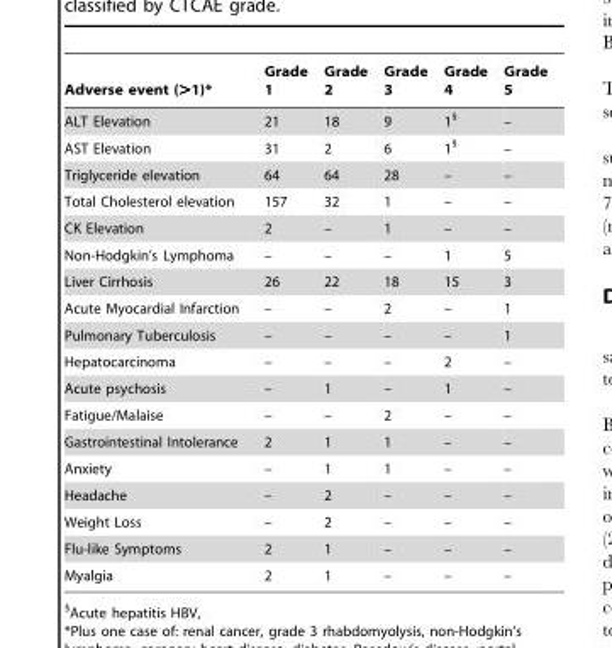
<table><thead><tr><td>Adverse event (&gt;1)*</td><td>Grade 1</td><td>Grade 2</td><td>Grade 3</td><td>Grade 4</td><td>Grade 5</td></tr></thead><tbody><tr><td>ALT Elevation</td><td>21</td><td>18</td><td>9</td><td>1§</td><td>–</td></tr><tr><td>AST Elevation</td><td>31</td><td>2</td><td>6</td><td>1§</td><td>–</td></tr><tr><td>Triglyceride elevation</td><td>64</td><td>64</td><td>28</td><td>–</td><td>–</td></tr><tr><td>Total Cholesterol elevation</td><td>157</td><td>32</td><td>1</td><td>–</td><td>–</td></tr><tr><td>CK Elevation</td><td>2</td><td>–</td><td>1</td><td>–</td><td>–</td></tr><tr><td>Non-Hodgkin’s Lymphoma</td><td>–</td><td>–</td><td>–</td><td>1</td><td>5</td></tr><tr><td>Liver Cirrhosis</td><td>26</td><td>22</td><td>18</td><td>15</td><td>3</td></tr><tr><td>Acute Myocardial Infarction</td><td>–</td><td>–</td><td>2</td><td>–</td><td>1</td></tr><tr><td>Pulmonary Tuberculosis</td><td>–</td><td>–</td><td>–</td><td>–</td><td>1</td></tr><tr><td>Hepatocarcinoma</td><td>–</td><td>–</td><td>–</td><td>2</td><td>–</td></tr><tr><td>Acute psychosis</td><td>–</td><td>1</td><td>–</td><td>1</td><td>–</td></tr><tr><td>Fatigue/Malaise</td><td>–</td><td>–</td><td>2</td><td>–</td><td>–</td></tr><tr><td>Gastrointestinal Intolerance</td><td>2</td><td>1</td><td>1</td><td>–</td><td>–</td></tr><tr><td>Anxiety</td><td>–</td><td>1</td><td>1</td><td>–</td><td>–</td></tr><tr><td>Headache</td><td>–</td><td>2</td><td>–</td><td>–</td><td>–</td></tr><tr><td>Weight Loss</td><td>–</td><td>2</td><td>–</td><td>–</td><td>–</td></tr><tr><td>Flu-like Symptoms</td><td>2</td><td>1</td><td>–</td><td>–</td><td>–</td></tr><tr><td>Myalgia</td><td>2</td><td>1</td><td>–</td><td>–</td><td>–</td></tr></tbody></table>